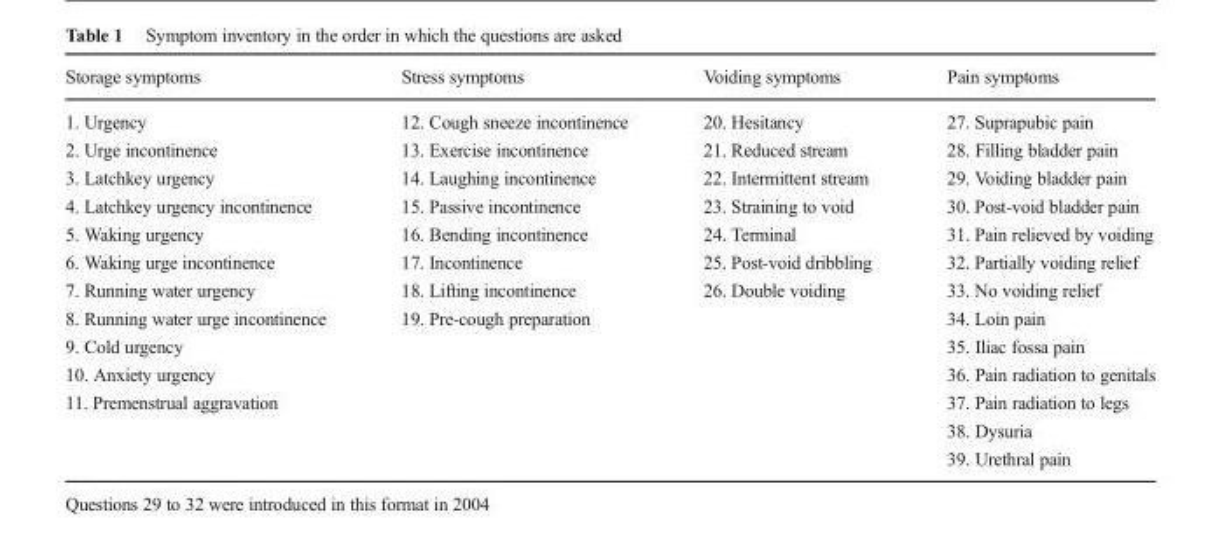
<table><thead><tr><td>Storage symptoms</td><td>Stress symptoms</td><td>Voiding symptoms</td><td>Pain symptoms</td></tr></thead><tbody><tr><td>1. Urgency</td><td>12. Cough sneeze incontinence</td><td>20. Hesitancy</td><td>27. Suprapubic pain</td></tr><tr><td>2. Urge incontinence</td><td>13. Exercise incontinence</td><td>21. Reduced stream</td><td>28. Filling bladder pain</td></tr><tr><td>3. Latchkey urgency</td><td>14. Laughing incontinence</td><td>22. Intermittent stream</td><td>29. Voiding bladder pain</td></tr><tr><td>4. Latchkey urgency incontinence</td><td>15. Passive incontinence</td><td>23. Straining to void</td><td>30. Post-void bladder pain</td></tr><tr><td>5. Waking urgency</td><td>16. Bending incontinence</td><td>24. Terminal</td><td>31. Pain relieved by voiding</td></tr><tr><td>6. Waking urge incontinence</td><td>17. Incontinence</td><td>25. Post-void dribbling</td><td>32. Partially voiding relief</td></tr><tr><td>7. Running water urgency</td><td>18. Lifting incontinence</td><td>26. Double voiding</td><td>33. No voiding relief</td></tr><tr><td>8. Running water urge incontinence</td><td>19. Pre-cough preparation</td><td></td><td>34. Loin pain</td></tr><tr><td>9. Cold urgency</td><td></td><td></td><td>35. Iliac fossa pain</td></tr><tr><td>10. Anxiety urgency</td><td></td><td></td><td>36. Pain radiation to genitals</td></tr><tr><td rowspan="3">11. Premenstrual aggravation</td><td></td><td></td><td>37. Pain radiation to legs</td></tr><tr><td></td><td></td><td>38. Dysuria</td></tr><tr><td></td><td></td><td>39. Urethral pain</td></tr></tbody></table>